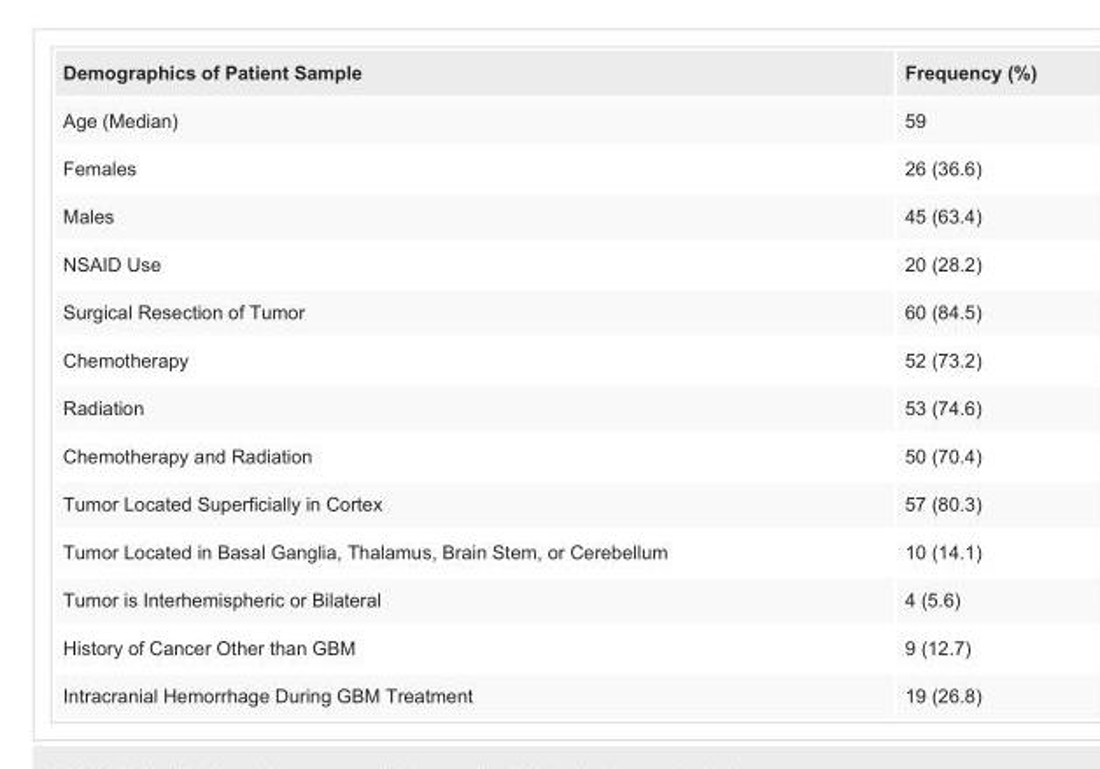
<table><tbody><tr><td>Demographics of Patient Sample</td><td>Frequency (%)</td></tr><tr><td>Age (Median)</td><td>59</td></tr><tr><td>Females</td><td>26 (36.6)</td></tr><tr><td>Males</td><td>45 (63.4)</td></tr><tr><td>NSAID Use</td><td>20 (28.2)</td></tr><tr><td>Surgical Resection of Tumor</td><td>60 (84.5)</td></tr><tr><td>Chemotherapy</td><td>52 (73.2)</td></tr><tr><td>Radiation</td><td>53 (74.6)</td></tr><tr><td>Chemotherapy and Radiation</td><td>50 (70.4)</td></tr><tr><td>Tumor Located Superficially in Cortex</td><td>57 (80.3)</td></tr><tr><td>Tumor Located in Basal Ganglia, Thalamus, Brain Stem, or Cerebellum</td><td>10 (14.1)</td></tr><tr><td>Tumor is Interhemispheric or Bilateral</td><td>4 (5.6)</td></tr><tr><td>History of Cancer Other than GBM</td><td>9 (12.7)</td></tr><tr><td>Intracranial Hemorrhage During GBM Treatment</td><td>19 (26.8)</td></tr></tbody></table>